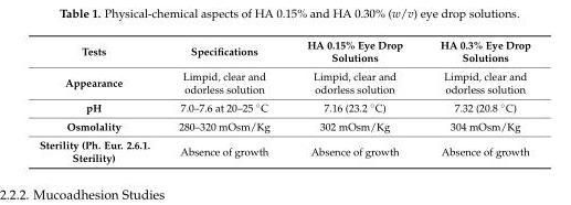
<table><thead><tr><td>Tests</td><td>Specifications</td><td>HA 0.15% Eye Drop Solutions</td><td>HA 0.3% Eye Drop Solutions</td></tr></thead><tbody><tr><td>Appearance</td><td>Limpid, clear and odorless solution</td><td>Limpid, clear and odorless solution</td><td>Limpid, clear and odorless solution</td></tr><tr><td>pH</td><td>7.0–7.6 at 20–25 ◦C</td><td>7.16 (23.2 ◦C)</td><td>7.32 (20.8 ◦C)</td></tr><tr><td>Osmolality</td><td>280–320 mOsm/Kg</td><td>302 mOsm/Kg</td><td>304 mOsm/Kg</td></tr><tr><td>Sterility (Ph. Eur. 2.6.1. Sterility)</td><td>Absence of growth</td><td>Absence of growth</td><td>Absence of growth</td></tr></tbody></table>